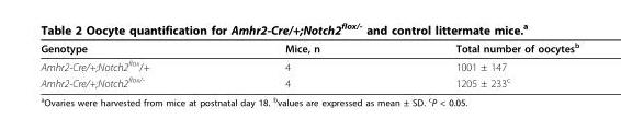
<table><thead><tr><td>Genotype</td><td>Mice, n</td><td>Total number of oocytes<sup>b</sup></td></tr></thead><tbody><tr><td>Amhr2-Cre/+;Notch2<sup>flox</sup>/+</td><td>4</td><td>1001 ± 147</td></tr><tr><td>Amhr2-Cre/+;Notch2<sup>flox/-</sup></td><td>4</td><td>1205 ± 233<sup>c</sup></td></tr></tbody></table>